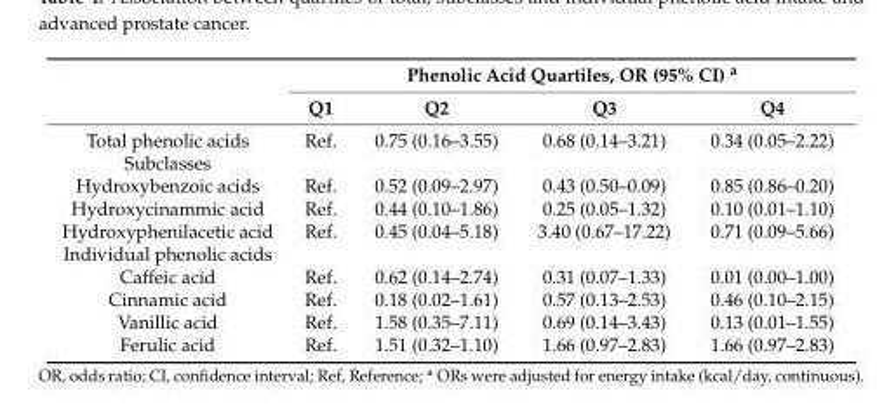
<table><thead><tr><td rowspan="2"></td><td colspan="4">Phenolic Acid Quartiles, OR (95% CI) <sup>a</sup></td></tr><tr><td>Q1</td><td>Q2</td><td>Q3</td><td>Q4</td></tr></thead><tbody><tr><td>Total phenolic acids</td><td>Ref.</td><td>0.75 (0.16–3.55)</td><td>0.68 (0.14–3.21)</td><td>0.34 (0.05–2.22)</td></tr><tr><td colspan="5">Subclasses</td></tr><tr><td>Hydroxybenzoic acids</td><td>Ref.</td><td>0.52 (0.09–2.97)</td><td>0.43 (0.50–0.09)</td><td>0.85 (0.86–0.20)</td></tr><tr><td>Hydroxycinammic acid</td><td>Ref.</td><td>0.44 (0.10–1.86)</td><td>0.25 (0.05–1.32)</td><td>0.10 (0.01–1.10)</td></tr><tr><td>Hydroxyphenilacetic acid</td><td>Ref.</td><td>0.45 (0.04–5.18)</td><td>3.40 (0.67–17.22)</td><td>0.71 (0.09–5.66)</td></tr><tr><td colspan="5">Individual phenolic acids</td></tr><tr><td>Caffeic acid</td><td>Ref.</td><td>0.62 (0.14–2.74)</td><td>0.31 (0.07–1.33)</td><td>0.01 (0.00–1.00)</td></tr><tr><td>Cinnamic acid</td><td>Ref.</td><td>0.18 (0.02–1.61)</td><td>0.57 (0.13–2.53)</td><td>0.46 (0.10–2.15)</td></tr><tr><td>Vanillic acid</td><td>Ref.</td><td>1.58 (0.35–7.11)</td><td>0.69 (0.14–3.43)</td><td>0.13 (0.01–1.55)</td></tr><tr><td>Ferulic acid</td><td>Ref.</td><td>1.51 (0.32–1.10)</td><td>1.66 (0.97–2.83)</td><td>1.66 (0.97–2.83)</td></tr></tbody></table>